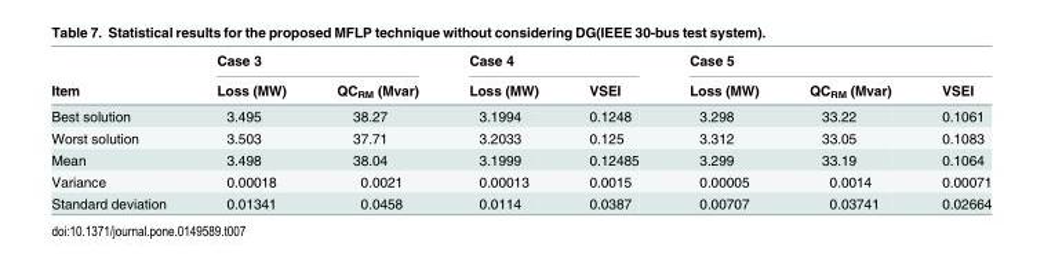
<table><thead><tr><td rowspan="2">Item</td><td colspan="2">Case 3</td><td colspan="2">Case 4</td><td colspan="3">Case 5</td></tr><tr><td>Loss (MW)</td><td>QC<sub>RM</sub> (Mvar)</td><td>Loss (MW)</td><td>VSEI</td><td>Loss (MW)</td><td>QC<sub>RM</sub> (Mvar)</td><td>VSEI</td></tr></thead><tbody><tr><td>Best solution</td><td>3.495</td><td>38.27</td><td>3.1994</td><td>0.1248</td><td>3.298</td><td>33.22</td><td>0.1061</td></tr><tr><td>Worst solution</td><td>3.503</td><td>37.71</td><td>3.2033</td><td>0.125</td><td>3.312</td><td>33.05</td><td>0.1083</td></tr><tr><td>Mean</td><td>3.498</td><td>38.04</td><td>3.1999</td><td>0.12485</td><td>3.299</td><td>33.19</td><td>0.1064</td></tr><tr><td>Variance</td><td>0.00018</td><td>0.0021</td><td>0.00013</td><td>0.0015</td><td>0.00005</td><td>0.0014</td><td>0.00071</td></tr><tr><td>Standard deviation</td><td>0.01341</td><td>0.0458</td><td>0.0114</td><td>0.0387</td><td>0.00707</td><td>0.03741</td><td>0.02664</td></tr></tbody></table>